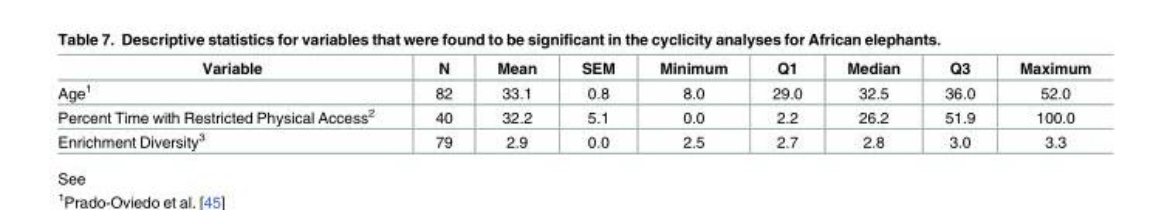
<table><thead><tr><td>Variable</td><td>N</td><td>Mean</td><td>SEM</td><td>Minimum</td><td>Q1</td><td>Median</td><td>Q3</td><td>Maximum</td></tr></thead><tbody><tr><td>Age<sup>1</sup></td><td>82</td><td>33.1</td><td>0.8</td><td>8.0</td><td>29.0</td><td>32.5</td><td>36.0</td><td>52.0</td></tr><tr><td>Percent Time with Restricted Physical Access<sup>2</sup></td><td>40</td><td>32.2</td><td>5.1</td><td>0.0</td><td>2.2</td><td>26.2</td><td>51.9</td><td>100.0</td></tr><tr><td>Enrichment Diversity<sup>3</sup></td><td>79</td><td>2.9</td><td>0.0</td><td>2.5</td><td>2.7</td><td>2.8</td><td>3.0</td><td>3.3</td></tr></tbody></table>